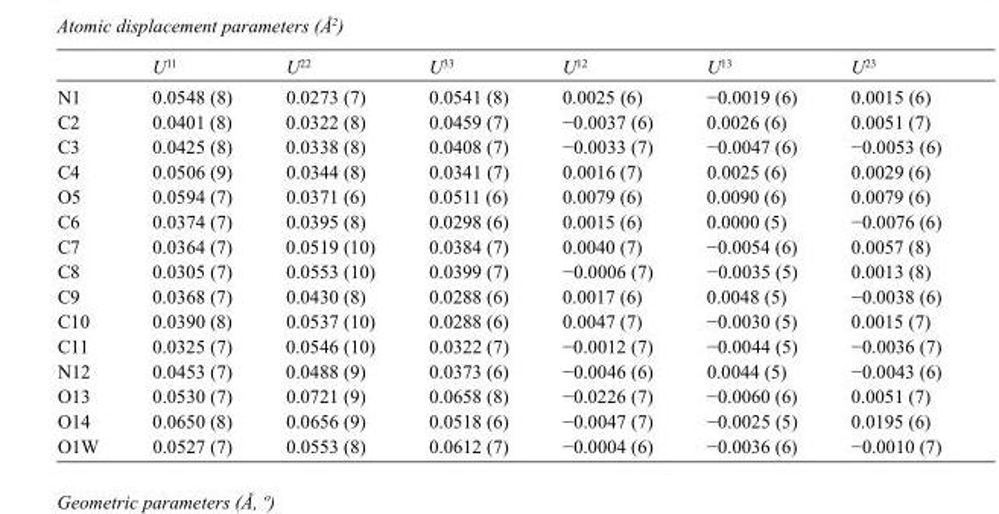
<table><thead><tr><td></td><td>U<sup>11</sup></td><td>U<sup>22</sup></td><td>U<sup>33</sup></td><td>U<sup>12</sup></td><td>U<sup>13</sup></td><td>U<sup>23</sup></td></tr></thead><tbody><tr><td>N1</td><td>0.0548 (8)</td><td>0.0273 (7)</td><td>0.0541 (8)</td><td>0.0025 (6)</td><td>−0.0019 (6)</td><td>0.0015 (6)</td></tr><tr><td>C2</td><td>0.0401 (8)</td><td>0.0322 (8)</td><td>0.0459 (7)</td><td>−0.0037 (6)</td><td>0.0026 (6)</td><td>0.0051 (7)</td></tr><tr><td>C3</td><td>0.0425 (8)</td><td>0.0338 (8)</td><td>0.0408 (7)</td><td>−0.0033 (7)</td><td>−0.0047 (6)</td><td>−0.0053 (6)</td></tr><tr><td>C4</td><td>0.0506 (9)</td><td>0.0344 (8)</td><td>0.0341 (7)</td><td>0.0016 (7)</td><td>0.0025 (6)</td><td>0.0029 (6)</td></tr><tr><td>O5</td><td>0.0594 (7)</td><td>0.0371 (6)</td><td>0.0511 (6)</td><td>0.0079 (6)</td><td>0.0090 (6)</td><td>0.0079 (6)</td></tr><tr><td>C6</td><td>0.0374 (7)</td><td>0.0395 (8)</td><td>0.0298 (6)</td><td>0.0015 (6)</td><td>0.0000 (5)</td><td>−0.0076 (6)</td></tr><tr><td>C7</td><td>0.0364 (7)</td><td>0.0519 (10)</td><td>0.0384 (7)</td><td>0.0040 (7)</td><td>−0.0054 (6)</td><td>0.0057 (8)</td></tr><tr><td>C8</td><td>0.0305 (7)</td><td>0.0553 (10)</td><td>0.0399 (7)</td><td>−0.0006 (7)</td><td>−0.0035 (5)</td><td>0.0013 (8)</td></tr><tr><td>C9</td><td>0.0368 (7)</td><td>0.0430 (8)</td><td>0.0288 (6)</td><td>0.0017 (6)</td><td>0.0048 (5)</td><td>−0.0038 (6)</td></tr><tr><td>C10</td><td>0.0390 (8)</td><td>0.0537 (10)</td><td>0.0288 (6)</td><td>0.0047 (7)</td><td>−0.0030 (5)</td><td>0.0015 (7)</td></tr><tr><td>C11</td><td>0.0325 (7)</td><td>0.0546 (10)</td><td>0.0322 (7)</td><td>−0.0012 (7)</td><td>−0.0044 (5)</td><td>−0.0036 (7)</td></tr><tr><td>N12</td><td>0.0453 (7)</td><td>0.0488 (9)</td><td>0.0373 (6)</td><td>−0.0046 (6)</td><td>0.0044 (5)</td><td>−0.0043 (6)</td></tr><tr><td>O13</td><td>0.0530 (7)</td><td>0.0721 (9)</td><td>0.0658 (8)</td><td>−0.0226 (7)</td><td>−0.0060 (6)</td><td>0.0051 (7)</td></tr><tr><td>O14</td><td>0.0650 (8)</td><td>0.0656 (9)</td><td>0.0518 (6)</td><td>−0.0047 (7)</td><td>−0.0025 (5)</td><td>0.0195 (6)</td></tr><tr><td>O1W</td><td>0.0527 (7)</td><td>0.0553 (8)</td><td>0.0612 (7)</td><td>−0.0004 (6)</td><td>−0.0036 (6)</td><td>−0.0010 (7)</td></tr></tbody></table>